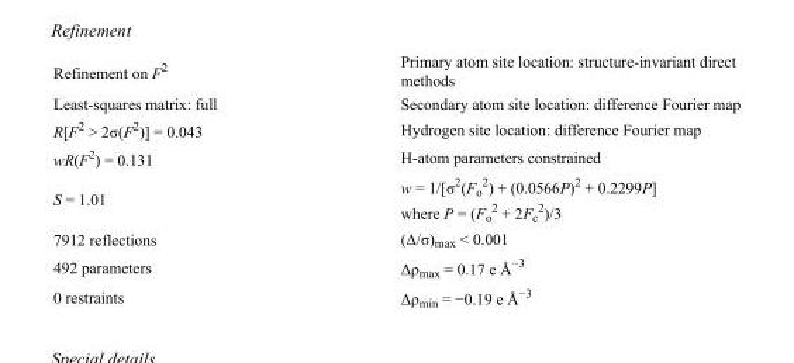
<table><tbody><tr><td>Refinement on F<sup>2</sup></td><td>Primary atom site location: structure-invariant direct methods</td></tr><tr><td>Least-squares matrix: full</td><td>Secondary atom site location: difference Fourier map</td></tr><tr><td>R[F<sup>2</sup> &gt; 2σ(F<sup>2</sup>)] = 0.043</td><td>Hydrogen site location: difference Fourier map</td></tr><tr><td>wR(F<sup>2</sup>) = 0.131</td><td>H-atom parameters constrained</td></tr><tr><td>S = 1.01</td><td>w = 1/[σ<sup>2</sup>(F<sub>o</sub> <sup>2</sup>) + (0.0566P)<sup>2</sup> + 0.2299P] where P = (F<sub>o</sub> <sup>2</sup> + 2F<sub>c</sub> <sup>2</sup>)/3</td></tr><tr><td>7912 reflections</td><td>(Δ/σ)<sub>max</sub> &lt; 0.001</td></tr><tr><td>492 parameters</td><td>Δρ<sub>max</sub> = 0.17 e Å<sup>−3</sup></td></tr><tr><td>0 restraints</td><td>Δρ<sub>min</sub> = −0.19 e Å<sup>−3</sup></td></tr></tbody></table>